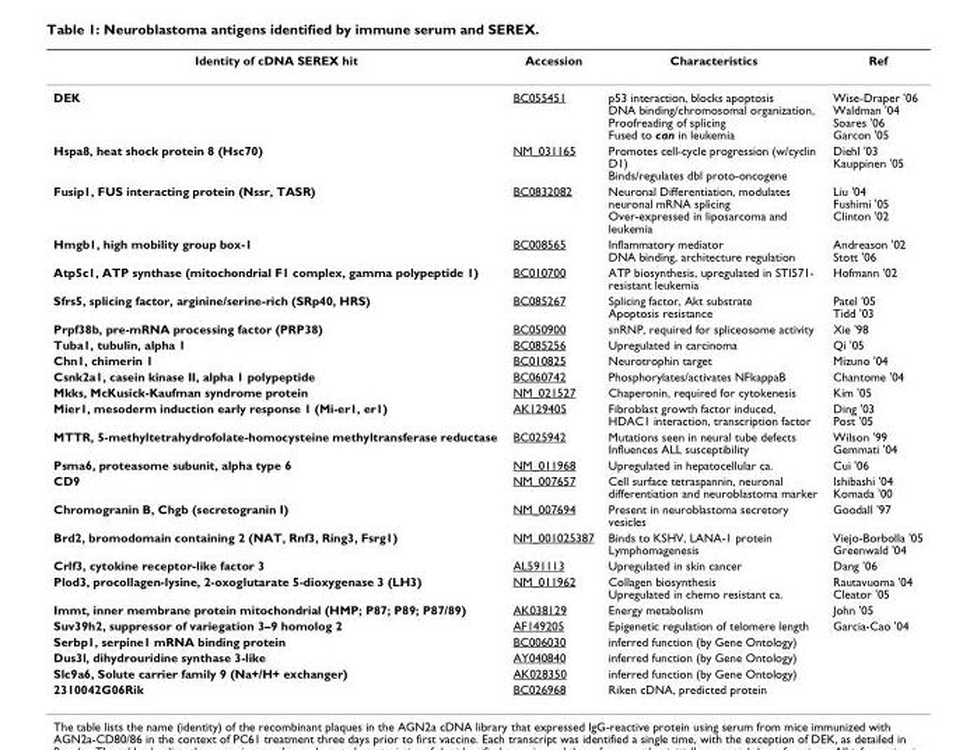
<table><thead><tr><td>Identity of cDNA SEREX hit</td><td>Accession</td><td>Characteristics</td><td>Ref</td></tr></thead><tbody><tr><td>DEK</td><td>BC055451</td><td>p53 interaction, blocks apoptosis DNA binding/chromosomal organization, Proofreading of splicing Fused to can in leukemia</td><td>Wise-Draper &#x27;06 Waldman &#x27;04 Soares &#x27;06 Garcon &#x27;05</td></tr><tr><td>Hspa8, heat shock protein 8 (Hsc70)</td><td>NM_031165</td><td>Promotes cell-cycle progression (w/cyclin D1) Binds/regulates dbl proto-oncogene</td><td>Diehl &#x27;03 Kauppinen &#x27;05</td></tr><tr><td>Fusip1, FUS interacting protein (Nssr, TASR)</td><td>BC0832082</td><td>Neuronal Differentiation, modulates neuronal mRNA splicing Over-expressed in liposarcoma and leukemia</td><td>Liu &#x27;04 Fushimi &#x27;05 Clinton &#x27;02</td></tr><tr><td>Hmgb1, high mobility group box-1</td><td>BC008565</td><td>Inflammatory mediator DNA binding, architecture regulation</td><td>Andreason &#x27;02 Stott &#x27;06</td></tr><tr><td>Atp5c1, ATP synthase (mitochondrial F1 complex, gamma polypeptide 1)</td><td>BC010700</td><td>ATP biosynthesis, upregulated in STI571- resistant leukemia</td><td>Hofmann &#x27;02</td></tr><tr><td>Sfrs5, splicing factor, arginine/serine-rich (SRp40, HRS)</td><td>BC085267</td><td>Splicing factor, Akt substrate Apoptosis resistance</td><td>Patel &#x27;05 Tidd &#x27;03</td></tr><tr><td>Prpf38b, pre-mRNA processing factor (PRP38)</td><td>BC050900</td><td>snRNP, required for spliceosome activity</td><td>Xie &#x27;98</td></tr><tr><td>Tuba1, tubulin, alpha 1</td><td>BC085256</td><td>Upregulated in carcinoma</td><td>Qi &#x27;05</td></tr><tr><td>Chn1, chimerin 1</td><td>BC010825</td><td>Neurotrophin target</td><td>Mizuno &#x27;04</td></tr><tr><td>Csnk2a1, casein kinase II, alpha 1 polypeptide</td><td>BC060742</td><td>Phosphorylates/activates NFkappaB</td><td>Chantome &#x27;04</td></tr><tr><td>Mkks, McKusick-Kaufman syndrome protein</td><td>NM_021527</td><td>Chaperonin, required for cytokenesis</td><td>Kim &#x27;05</td></tr><tr><td>Mier1, mesoderm induction early response 1 (Mi-er1, er1)</td><td>AK129405</td><td>Fibroblast growth factor induced, HDAC1 interaction, transcription factor</td><td>Ding &#x27;03 Post &#x27;05</td></tr><tr><td>MTTR, 5-methyltetrahydrofolate-homocysteine methyltransferase reductase</td><td>BC025942</td><td>Mutations seen in neural tube defects Influences ALL susceptibility</td><td>Wilson &#x27;99 Gemmati &#x27;04</td></tr><tr><td>Psma6, proteasome subunit, alpha type 6</td><td>NM_011968</td><td>Upregulated in hepatocellular ca.</td><td>Cui &#x27;06</td></tr><tr><td>CD9</td><td>NM_007657</td><td>Cell surface tetraspannin, neuronal differentiation and neuroblastoma marker</td><td>Ishibashi &#x27;04 Komada &#x27;00</td></tr><tr><td>Chromogranin B, Chgb (secretogranin I)</td><td>NM_007694</td><td>Present in neuroblastoma secretory vesicles</td><td>Goodall &#x27;97</td></tr><tr><td>Brd2, bromodomain containing 2 (NAT, Rnf3, Ring3, Fsrg1)</td><td>NM_001025387</td><td>Binds to KSHV, LANA-1 protein Lymphomagenesis</td><td>Viejo-Borbolla &#x27;05 Greenwald &#x27;04</td></tr><tr><td>Crlf3, cytokine receptor-like factor 3</td><td>AL591113</td><td>Upregulated in skin cancer</td><td>Dang &#x27;06</td></tr><tr><td>Plod3, procollagen-lysine, 2-oxoglutarate 5-dioxygenase 3 (LH3)</td><td>NM_011962</td><td>Collagen biosynthesis Upregulated in chemo resistant ca.</td><td>Rautavuoma &#x27;04 Cleator &#x27;05</td></tr><tr><td>Immt, inner membrane protein mitochondrial (HMP; P87; P89; P87/89)</td><td>AK038129</td><td>Energy metabolism</td><td>John &#x27;05</td></tr><tr><td>Suv39h2, suppressor of variegation 3–9 homolog 2</td><td>AF149205</td><td>Epigenetic regulation of telomere length</td><td>Garcia-Cao &#x27;04</td></tr><tr><td>Serbp1, serpine1 mRNA binding protein</td><td>BC006030</td><td>inferred function (by Gene Ontology)</td><td></td></tr><tr><td>Dus3l, dihydrouridine synthase 3-like</td><td>AY040840</td><td>inferred function (by Gene Ontology)</td><td></td></tr><tr><td>Slc9a6, Solute carrier family 9 (Na+/H+ exchanger)</td><td>AK028350</td><td>inferred function (by Gene Ontology)</td><td></td></tr><tr><td>2310042G06Rik</td><td>BC026968</td><td>Riken cDNA, predicted protein</td><td></td></tr></tbody></table>